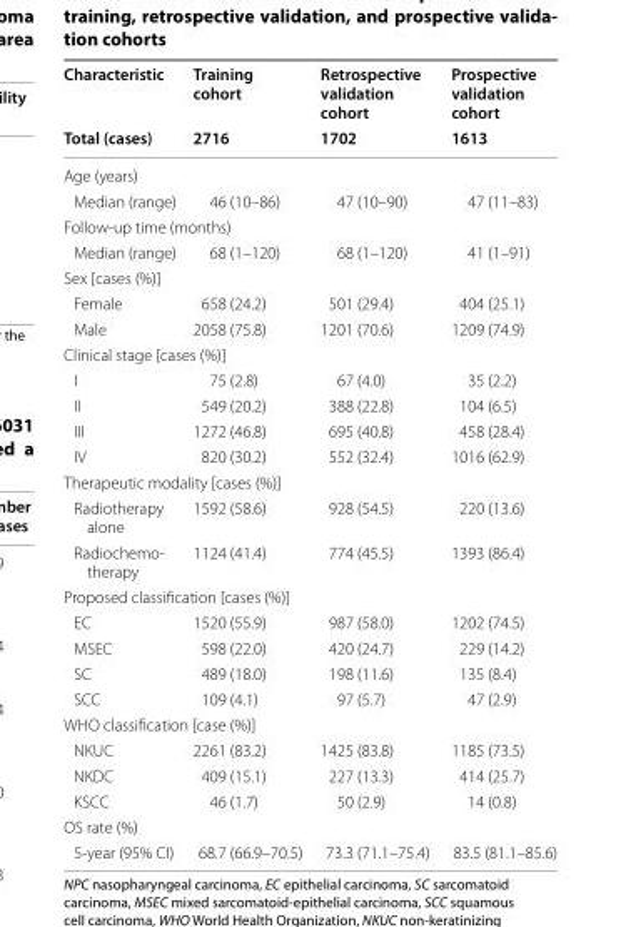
<table><thead><tr><td rowspan="2">Characteristic Total (cases)</td><td rowspan="2">Training cohort 2716</td><td rowspan="2">Retrospective validation cohort 1702</td><td rowspan="2">Prospective validation cohort 1613</td></tr><tr></tr></thead><tbody><tr><td colspan="4">Age (years)</td></tr><tr><td>Median (range)</td><td>46 (10–86)</td><td>47 (10–90)</td><td>47 (11–83)</td></tr><tr><td colspan="4">Follow‑up time (months)</td></tr><tr><td>Median (range)</td><td>68 (1–120)</td><td>68 (1–120)</td><td>41 (1–91)</td></tr><tr><td colspan="4">Sex [cases (%)]</td></tr><tr><td>Female</td><td>658 (24.2)</td><td>501 (29.4)</td><td>404 (25.1)</td></tr><tr><td>Male</td><td>2058 (75.8)</td><td>1201 (70.6)</td><td>1209 (74.9)</td></tr><tr><td colspan="4">Clinical stage [cases (%)]</td></tr><tr><td>I</td><td>75 (2.8)</td><td>67 (4.0)</td><td>35 (2.2)</td></tr><tr><td>II</td><td>549 (20.2)</td><td>388 (22.8)</td><td>104 (6.5)</td></tr><tr><td>III</td><td>1272 (46.8)</td><td>695 (40.8)</td><td>458 (28.4)</td></tr><tr><td>IV</td><td>820 (30.2)</td><td>552 (32.4)</td><td>1016 (62.9)</td></tr><tr><td colspan="4">Therapeutic modality [cases (%)]</td></tr><tr><td>Radiotherapy alone</td><td>1592 (58.6)</td><td>928 (54.5)</td><td>220 (13.6)</td></tr><tr><td>Radiochemo‑ therapy</td><td>1124 (41.4)</td><td>774 (45.5)</td><td>1393 (86.4)</td></tr><tr><td colspan="4">Proposed classification [cases (%)]</td></tr><tr><td>EC</td><td>1520 (55.9)</td><td>987 (58.0)</td><td>1202 (74.5)</td></tr><tr><td>MSEC</td><td>598 (22.0)</td><td>420 (24.7)</td><td>229 (14.2)</td></tr><tr><td>SC</td><td>489 (18.0)</td><td>198 (11.6)</td><td>135 (8.4)</td></tr><tr><td>SCC</td><td>109 (4.1)</td><td>97 (5.7)</td><td>47 (2.9)</td></tr><tr><td colspan="4">WHO classification [case (%)]</td></tr><tr><td>NKUC</td><td>2261 (83.2)</td><td>1425 (83.8)</td><td>1185 (73.5)</td></tr><tr><td>NKDC</td><td>409 (15.1)</td><td>227 (13.3)</td><td>414 (25.7)</td></tr><tr><td>KSCC</td><td>46 (1.7)</td><td>50 (2.9)</td><td>14 (0.8)</td></tr><tr><td colspan="4">OS rate (%)</td></tr><tr><td>5‑year (95% CI)</td><td>68.7 (66.9–70.5)</td><td>73.3 (71.1–75.4)</td><td>83.5 (81.1–85.6)</td></tr></tbody></table>